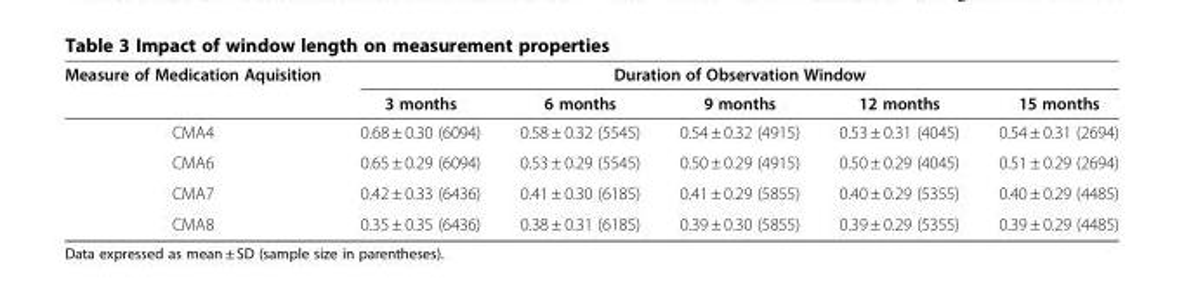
<table><thead><tr><td rowspan="2">Measure of Medication Aquisition</td><td colspan="5">Duration of Observation Window</td></tr><tr><td>3 months</td><td>6 months</td><td>9 months</td><td>12 months</td><td>15 months</td></tr></thead><tbody><tr><td>CMA4</td><td>0.68 ± 0.30 (6094)</td><td>0.58 ± 0.32 (5545)</td><td>0.54 ± 0.32 (4915)</td><td>0.53 ± 0.31 (4045)</td><td>0.54 ± 0.31 (2694)</td></tr><tr><td>CMA6</td><td>0.65 ± 0.29 (6094)</td><td>0.53 ± 0.29 (5545)</td><td>0.50 ± 0.29 (4915)</td><td>0.50 ± 0.29 (4045)</td><td>0.51 ± 0.29 (2694)</td></tr><tr><td>CMA7</td><td>0.42 ± 0.33 (6436)</td><td>0.41 ± 0.30 (6185)</td><td>0.41 ± 0.29 (5855)</td><td>0.40 ± 0.29 (5355)</td><td>0.40 ± 0.29 (4485)</td></tr><tr><td>CMA8</td><td>0.35 ± 0.35 (6436)</td><td>0.38 ± 0.31 (6185)</td><td>0.39 ± 0.30 (5855)</td><td>0.39 ± 0.29 (5355)</td><td>0.39 ± 0.29 (4485)</td></tr></tbody></table>